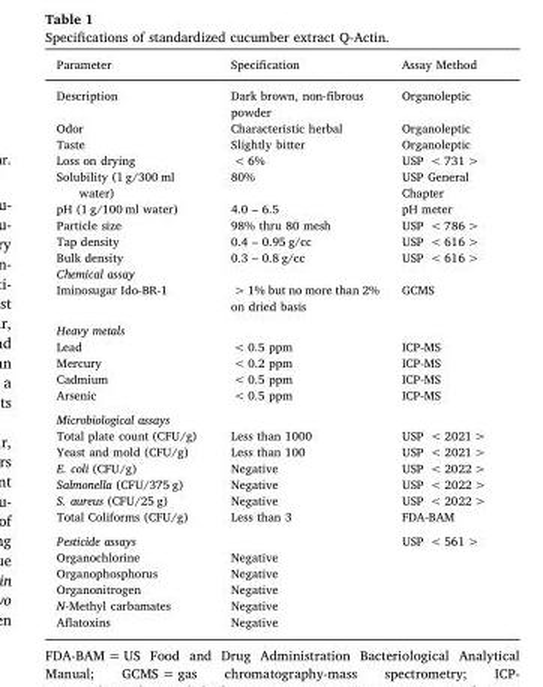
<table><thead><tr><td>Parameter</td><td>Specification</td><td>Assay Method</td></tr></thead><tbody><tr><td>Description</td><td>Dark brown, non-fibrous powder</td><td>Organoleptic</td></tr><tr><td>Odor</td><td>Characteristic herbal</td><td>Organoleptic</td></tr><tr><td>Taste</td><td>Slightly bitter</td><td>Organoleptic</td></tr><tr><td>Loss on drying</td><td>&lt; 6%</td><td>USP &lt; 731 &gt;</td></tr><tr><td>Solubility (1 g/300 ml water)</td><td>80%</td><td>USP General Chapter</td></tr><tr><td>pH (1 g/100 ml water)</td><td>4.0 – 6.5</td><td>pH meter</td></tr><tr><td>Particle size</td><td>98% thru 80 mesh</td><td>USP &lt; 786 &gt;</td></tr><tr><td>Tap density</td><td>0.4 – 0.95 g/cc</td><td>USP &lt; 616 &gt;</td></tr><tr><td>Bulk density</td><td>0.3 – 0.8 g/cc</td><td>USP &lt; 616 &gt;</td></tr><tr><td colspan="3">Chemical assay</td></tr><tr><td>Iminosugar Ido-BR-1</td><td>&gt; 1% but no more than 2% on dried basis</td><td>GCMS</td></tr><tr><td colspan="3">Heavy metals</td></tr><tr><td>Lead</td><td>&lt; 0.5 ppm</td><td>ICP-MS</td></tr><tr><td>Mercury</td><td>&lt; 0.2 ppm</td><td>ICP-MS</td></tr><tr><td>Cadmium</td><td>&lt; 0.5 ppm</td><td>ICP-MS</td></tr><tr><td>Arsenic</td><td>&lt; 0.5 ppm</td><td>ICP-MS</td></tr><tr><td colspan="3">Microbiological assays</td></tr><tr><td>Total plate count (CFU/g)</td><td>Less than 1000</td><td>USP &lt; 2021 &gt;</td></tr><tr><td>Yeast and mold (CFU/g)</td><td>Less than 100</td><td>USP &lt; 2021 &gt;</td></tr><tr><td>E. coli (CFU/g)</td><td>Negative</td><td>USP &lt; 2022 &gt;</td></tr><tr><td>Salmonella (CFU/375 g)</td><td>Negative</td><td>USP &lt; 2022 &gt;</td></tr><tr><td>S. aureus (CFU/25 g)</td><td>Negative</td><td>USP &lt; 2022 &gt;</td></tr><tr><td>Total Coliforms (CFU/g)</td><td>Less than 3</td><td>FDA-BAM</td></tr><tr><td>Pesticide assays</td><td></td><td>USP &lt; 561 &gt;</td></tr><tr><td>Organochlorine</td><td>Negative</td><td></td></tr><tr><td>Organophosphorus</td><td>Negative</td><td></td></tr><tr><td>Organonitrogen</td><td>Negative</td><td></td></tr><tr><td>N-Methyl carbamates</td><td>Negative</td><td></td></tr><tr><td>Aflatoxins</td><td>Negative</td><td></td></tr></tbody></table>